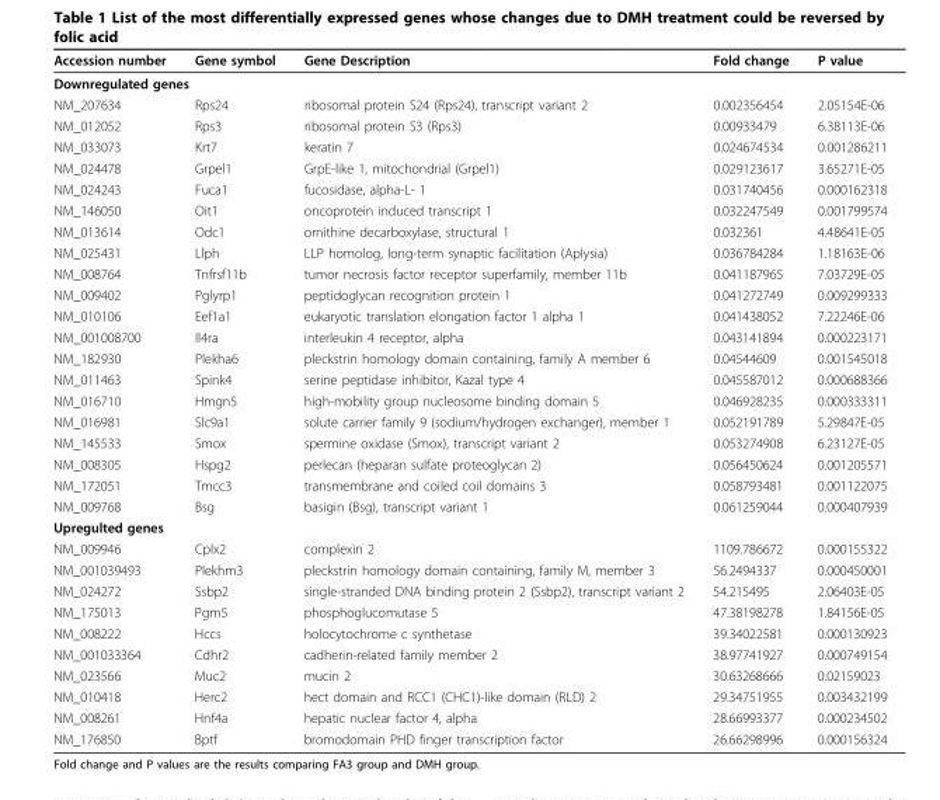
<table><thead><tr><td>Accession number</td><td>Gene symbol</td><td>Gene Description</td><td>Fold change</td><td>P value</td></tr></thead><tbody><tr><td colspan="5">Downregulated genes</td></tr><tr><td>NM_207634</td><td>Rps24</td><td>ribosomal protein S24 (Rps24), transcript variant 2</td><td>0.002356454</td><td>2.05154E-06</td></tr><tr><td>NM_012052</td><td>Rps3</td><td>ribosomal protein S3 (Rps3)</td><td>0.00933479</td><td>6.38113E-06</td></tr><tr><td>NM_033073</td><td>Krt7</td><td>keratin 7</td><td>0.024674534</td><td>0.001286211</td></tr><tr><td>NM_024478</td><td>Grpel1</td><td>GrpE-like 1, mitochondrial (Grpel1)</td><td>0.029123617</td><td>3.65271E-05</td></tr><tr><td>NM_024243</td><td>Fuca1</td><td>fucosidase, alpha-L- 1</td><td>0.031740456</td><td>0.000162318</td></tr><tr><td>NM_146050</td><td>Oit1</td><td>oncoprotein induced transcript 1</td><td>0.032247549</td><td>0.001799574</td></tr><tr><td>NM_013614</td><td>Odc1</td><td>ornithine decarboxylase, structural 1</td><td>0.032361</td><td>4.48641E-05</td></tr><tr><td>NM_025431</td><td>Llph</td><td>LLP homolog, long-term synaptic facilitation (Aplysia)</td><td>0.036784284</td><td>1.18163E-06</td></tr><tr><td>NM_008764</td><td>Tnfrsf11b</td><td>tumor necrosis factor receptor superfamily, member 11b</td><td>0.041187965</td><td>7.03729E-05</td></tr><tr><td>NM_009402</td><td>Pglyrp1</td><td>peptidoglycan recognition protein 1</td><td>0.041272749</td><td>0.009299333</td></tr><tr><td>NM_010106</td><td>Eef1a1</td><td>eukaryotic translation elongation factor 1 alpha 1</td><td>0.041438052</td><td>7.22246E-06</td></tr><tr><td>NM_001008700</td><td>Il4ra</td><td>interleukin 4 receptor, alpha</td><td>0.043141894</td><td>0.000223171</td></tr><tr><td>NM_182930</td><td>Plekha6</td><td>pleckstrin homology domain containing, family A member 6</td><td>0.04544609</td><td>0.001545018</td></tr><tr><td>NM_011463</td><td>Spink4</td><td>serine peptidase inhibitor, Kazal type 4</td><td>0.045587012</td><td>0.000688366</td></tr><tr><td>NM_016710</td><td>Hmgn5</td><td>high-mobility group nucleosome binding domain 5</td><td>0.046928235</td><td>0.000333311</td></tr><tr><td>NM_016981</td><td>Slc9a1</td><td>solute carrier family 9 (sodium/hydrogen exchanger), member 1</td><td>0.052191789</td><td>5.29847E-05</td></tr><tr><td>NM_145533</td><td>Smox</td><td>spermine oxidase (Smox), transcript variant 2</td><td>0.053274908</td><td>6.23127E-05</td></tr><tr><td>NM_008305</td><td>Hspg2</td><td>perlecan (heparan sulfate proteoglycan 2)</td><td>0.056450624</td><td>0.001205571</td></tr><tr><td>NM_172051</td><td>Tmcc3</td><td>transmembrane and coiled coil domains 3</td><td>0.058793481</td><td>0.001122075</td></tr><tr><td>NM_009768</td><td>Bsg</td><td>basigin (Bsg), transcript variant 1</td><td>0.061259044</td><td>0.000407939</td></tr><tr><td colspan="5">Upregulted genes</td></tr><tr><td>NM_009946</td><td>Cplx2</td><td>complexin 2</td><td>1109.786672</td><td>0.000155322</td></tr><tr><td>NM_001039493</td><td>Plekhm3</td><td>pleckstrin homology domain containing, family M, member 3</td><td>56.2494337</td><td>0.000450001</td></tr><tr><td>NM_024272</td><td>Ssbp2</td><td>single-stranded DNA binding protein 2 (Ssbp2), transcript variant 2</td><td>54.215495</td><td>2.06403E-05</td></tr><tr><td>NM_175013</td><td>Pgm5</td><td>phosphoglucomutase 5</td><td>47.38198278</td><td>1.84156E-05</td></tr><tr><td>NM_008222</td><td>Hccs</td><td>holocytochrome c synthetase</td><td>39.34022581</td><td>0.000130923</td></tr><tr><td>NM_001033364</td><td>Cdhr2</td><td>cadherin-related family member 2</td><td>38.97741927</td><td>0.000749154</td></tr><tr><td>NM_023566</td><td>Muc2</td><td>mucin 2</td><td>30.63268666</td><td>0.02159023</td></tr><tr><td>NM_010418</td><td>Herc2</td><td>hect domain and RCC1 (CHC1)-like domain (RLD) 2</td><td>29.34751955</td><td>0.003432199</td></tr><tr><td>NM_008261</td><td>Hnf4a</td><td>hepatic nuclear factor 4, alpha</td><td>28.66993377</td><td>0.000234502</td></tr><tr><td>NM_176850</td><td>Bptf</td><td>bromodomain PHD finger transcription factor</td><td>26.66298996</td><td>0.000156324</td></tr></tbody></table>